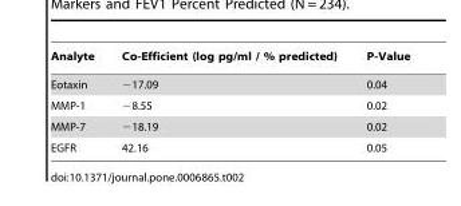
<table><thead><tr><td>Analyte</td><td>Co-Efficient (log pg/ml / % predicted)</td><td>P-Value</td></tr></thead><tbody><tr><td>Eotaxin</td><td>−17.09</td><td>0.04</td></tr><tr><td>MMP-1</td><td>−8.55</td><td>0.02</td></tr><tr><td>MMP-7</td><td>−18.19</td><td>0.02</td></tr><tr><td>EGFR</td><td>42.16</td><td>0.05</td></tr></tbody></table>